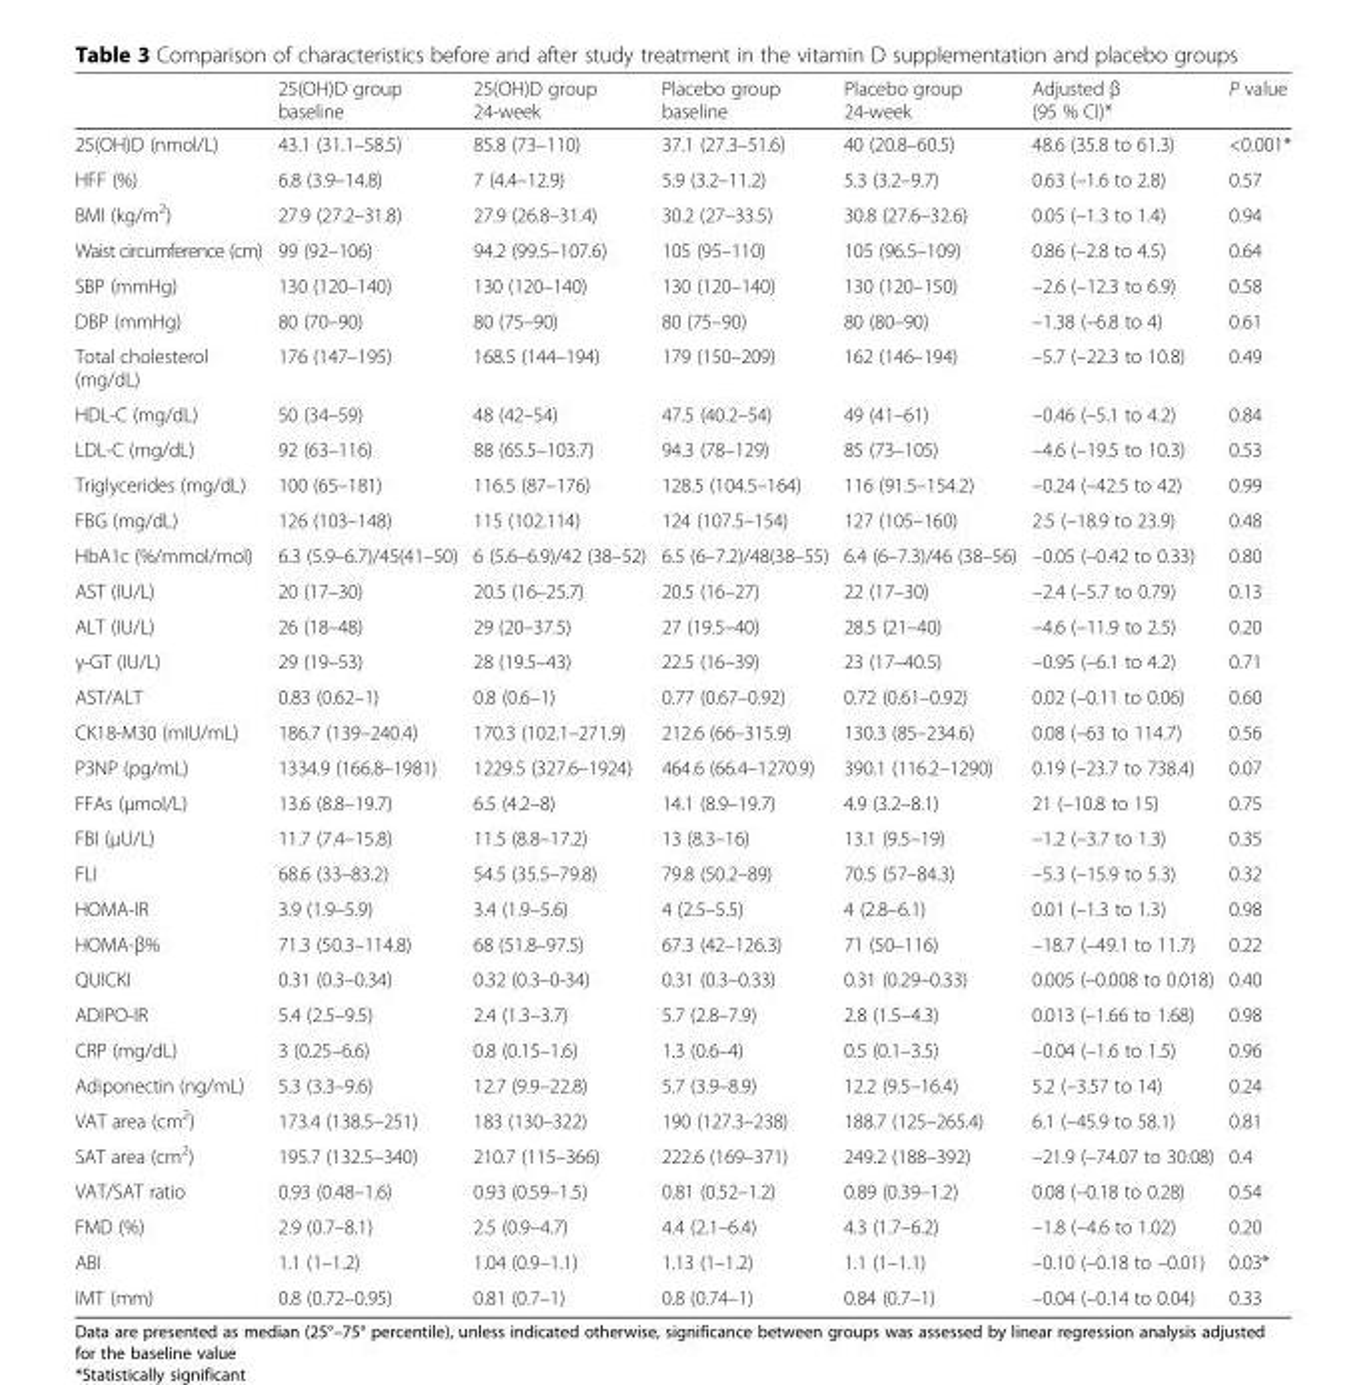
<table><thead><tr><td></td><td>25(OH)D group baseline</td><td>25(OH)D group 24-week</td><td>Placebo group baseline</td><td>Placebo group 24-week</td><td>Adjusted β (95 % CI)*</td><td>P value</td></tr></thead><tbody><tr><td>25(OH)D (nmol/L)</td><td>43.1 (31.1–58.5)</td><td>85.8 (73–110)</td><td>37.1 (27.3–51.6)</td><td>40 (20.8–60.5)</td><td>48.6 (35.8 to 61.3)</td><td>&lt;0.001*</td></tr><tr><td>HFF (%)</td><td>6.8 (3.9–14.8)</td><td>7 (4.4–12.9)</td><td>5.9 (3.2–11.2)</td><td>5.3 (3.2–9.7)</td><td>0.63 (–1.6 to 2.8)</td><td>0.57</td></tr><tr><td>BMI (kg/m<sup>2</sup>)</td><td>27.9 (27.2–31.8)</td><td>27.9 (26.8–31.4)</td><td>30.2 (27–33.5)</td><td>30.8 (27.6–32.6)</td><td>0.05 (–1.3 to 1.4)</td><td>0.94</td></tr><tr><td>Waist circumference (cm)</td><td>99 (92–106)</td><td>94.2 (99.5–107.6)</td><td>105 (95–110)</td><td>105 (96.5–109)</td><td>0.86 (–2.8 to 4.5)</td><td>0.64</td></tr><tr><td>SBP (mmHg)</td><td>130 (120–140)</td><td>130 (120–140)</td><td>130 (120–140)</td><td>130 (120–150)</td><td>–2.6 (–12.3 to 6.9)</td><td>0.58</td></tr><tr><td>DBP (mmHg)</td><td>80 (70–90)</td><td>80 (75–90)</td><td>80 (75–90)</td><td>80 (80–90)</td><td>–1.38 (–6.8 to 4)</td><td>0.61</td></tr><tr><td>Total cholesterol (mg/dL)</td><td>176 (147–195)</td><td>168.5 (144–194)</td><td>179 (150–209)</td><td>162 (146–194)</td><td>–5.7 (–22.3 to 10.8)</td><td>0.49</td></tr><tr><td>HDL-C (mg/dL)</td><td>50 (34–59)</td><td>48 (42–54)</td><td>47.5 (40.2–54)</td><td>49 (41–61)</td><td>–0.46 (–5.1 to 4.2)</td><td>0.84</td></tr><tr><td>LDL-C (mg/dL)</td><td>92 (63–116)</td><td>88 (65.5–103.7)</td><td>94.3 (78–129)</td><td>85 (73–105)</td><td>–4.6 (–19.5 to 10.3)</td><td>0.53</td></tr><tr><td>Triglycerides (mg/dL)</td><td>100 (65–181)</td><td>116.5 (87–176)</td><td>128.5 (104.5–164)</td><td>116 (91.5–154.2)</td><td>–0.24 (–42.5 to 42)</td><td>0.99</td></tr><tr><td>FBG (mg/dL)</td><td>126 (103–148)</td><td>115 (102.114)</td><td>124 (107.5–154)</td><td>127 (105–160)</td><td>2.5 (–18.9 to 23.9)</td><td>0.48</td></tr><tr><td>HbA1c (%/mmol/mol)</td><td>6.3 (5.9–6.7)/45(41–50)</td><td>6 (5.6–6.9)/42 (38–52)</td><td>6.5 (6–7.2)/48(38–55)</td><td>6.4 (6–7.3)/46 (38–56)</td><td>–0.05 (–0.42 to 0.33)</td><td>0.80</td></tr><tr><td>AST (IU/L)</td><td>20 (17–30)</td><td>20.5 (16–25.7)</td><td>20.5 (16–27)</td><td>22 (17–30)</td><td>–2.4 (–5.7 to 0.79)</td><td>0.13</td></tr><tr><td>ALT (IU/L)</td><td>26 (18–48)</td><td>29 (20–37.5)</td><td>27 (19.5–40)</td><td>28.5 (21–40)</td><td>–4.6 (–11.9 to 2.5)</td><td>0.20</td></tr><tr><td>γ-GT (IU/L)</td><td>29 (19–53)</td><td>28 (19.5–43)</td><td>22.5 (16–39)</td><td>23 (17–40.5)</td><td>–0.95 (–6.1 to 4.2)</td><td>0.71</td></tr><tr><td>AST/ALT</td><td>0.83 (0.62–1)</td><td>0.8 (0.6–1)</td><td>0.77 (0.67–0.92)</td><td>0.72 (0.61–0.92)</td><td>0.02 (–0.11 to 0.06)</td><td>0.60</td></tr><tr><td>CK18-M30 (mIU/mL)</td><td>186.7 (139–240.4)</td><td>170.3 (102.1–271.9)</td><td>212.6 (66–315.9)</td><td>130.3 (85–234.6)</td><td>0.08 (–63 to 114.7)</td><td>0.56</td></tr><tr><td>P3NP (pg/mL)</td><td>1334.9 (166.8–1981)</td><td>1229.5 (327.6–1924)</td><td>464.6 (66.4–1270.9)</td><td>390.1 (116.2–1290)</td><td>0.19 (–23.7 to 738.4)</td><td>0.07</td></tr><tr><td>FFAs (μmol/L)</td><td>13.6 (8.8–19.7)</td><td>6.5 (4.2–8)</td><td>14.1 (8.9–19.7)</td><td>4.9 (3.2–8.1)</td><td>21 (–10.8 to 15)</td><td>0.75</td></tr><tr><td>FBI (μU/L)</td><td>11.7 (7.4–15.8)</td><td>11.5 (8.8–17.2)</td><td>13 (8.3–16)</td><td>13.1 (9.5–19)</td><td>–1.2 (–3.7 to 1.3)</td><td>0.35</td></tr><tr><td>FLI</td><td>68.6 (33–83.2)</td><td>54.5 (35.5–79.8)</td><td>79.8 (50.2–89)</td><td>70.5 (57–84.3)</td><td>–5.3 (–15.9 to 5.3)</td><td>0.32</td></tr><tr><td>HOMA-IR</td><td>3.9 (1.9–5.9)</td><td>3.4 (1.9–5.6)</td><td>4 (2.5–5.5)</td><td>4 (2.8–6.1)</td><td>0.01 (–1.3 to 1.3)</td><td>0.98</td></tr><tr><td>HOMA-β%</td><td>71.3 (50.3–114.8)</td><td>68 (51.8–97.5)</td><td>67.3 (42–126.3)</td><td>71 (50–116)</td><td>–18.7 (–49.1 to 11.7)</td><td>0.22</td></tr><tr><td>QUICKI</td><td>0.31 (0.3–0.34)</td><td>0.32 (0.3–0-34)</td><td>0.31 (0.3–0.33)</td><td>0.31 (0.29–0.33)</td><td>0.005 (–0.008 to 0.018)</td><td>0.40</td></tr><tr><td>ADIPO-IR</td><td>5.4 (2.5–9.5)</td><td>2.4 (1.3–3.7)</td><td>5.7 (2.8–7.9)</td><td>2.8 (1.5–4.3)</td><td>0.013 (–1.66 to 1.68)</td><td>0.98</td></tr><tr><td>CRP (mg/dL)</td><td>3 (0.25–6.6)</td><td>0.8 (0.15–1.6)</td><td>1.3 (0.6–4)</td><td>0.5 (0.1–3.5)</td><td>–0.04 (–1.6 to 1.5)</td><td>0.96</td></tr><tr><td>Adiponectin (ng/mL)</td><td>5.3 (3.3–9.6)</td><td>12.7 (9.9–22.8)</td><td>5.7 (3.9–8.9)</td><td>12.2 (9.5–16.4)</td><td>5.2 (–3.57 to 14)</td><td>0.24</td></tr><tr><td>VAT area (cm<sup>2</sup>)</td><td>173.4 (138.5–251)</td><td>183 (130–322)</td><td>190 (127.3–238)</td><td>188.7 (125–265.4)</td><td>6.1 (–45.9 to 58.1)</td><td>0.81</td></tr><tr><td>SAT area (cm<sup>2</sup>)</td><td>195.7 (132.5–340)</td><td>210.7 (115–366)</td><td>222.6 (169–371)</td><td>249.2 (188–392)</td><td>–21.9 (–74.07 to 30.08)</td><td>0.4</td></tr><tr><td>VAT/SAT ratio</td><td>0.93 (0.48–1.6)</td><td>0.93 (0.59–1.5)</td><td>0.81 (0.52–1.2)</td><td>0.89 (0.39–1.2)</td><td>0.08 (–0.18 to 0.28)</td><td>0.54</td></tr><tr><td>FMD (%)</td><td>2.9 (0.7–8.1)</td><td>2.5 (0.9–4.7)</td><td>4.4 (2.1–6.4)</td><td>4.3 (1.7–6.2)</td><td>–1.8 (–4.6 to 1.02)</td><td>0.20</td></tr><tr><td>ABI</td><td>1.1 (1–1.2)</td><td>1.04 (0.9–1.1)</td><td>1.13 (1–1.2)</td><td>1.1 (1–1.1)</td><td>–0.10 (–0.18 to –0.01)</td><td>0.03*</td></tr><tr><td>IMT (mm)</td><td>0.8 (0.72–0.95)</td><td>0.81 (0.7–1)</td><td>0.8 (0.74–1)</td><td>0.84 (0.7–1)</td><td>–0.04 (–0.14 to 0.04)</td><td>0.33</td></tr></tbody></table>